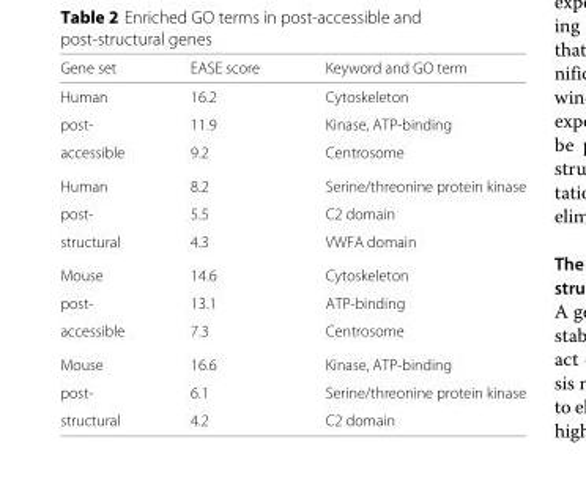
<table><thead><tr><td>Gene set</td><td>EASE score</td><td>Keyword and GO term</td></tr></thead><tbody><tr><td>Human</td><td>16.2</td><td>Cytoskeleton</td></tr><tr><td>post-</td><td>11.9</td><td>Kinase, ATP-binding</td></tr><tr><td>accessible</td><td>9.2</td><td>Centrosome</td></tr><tr><td>Human</td><td>8.2</td><td>Serine/threonine protein kinase</td></tr><tr><td>post-</td><td>5.5</td><td>C2 domain</td></tr><tr><td>structural</td><td>4.3</td><td>VWFA domain</td></tr><tr><td>Mouse</td><td>14.6</td><td>Cytoskeleton</td></tr><tr><td>post-</td><td>13.1</td><td>ATP-binding</td></tr><tr><td>accessible</td><td>7.3</td><td>Centrosome</td></tr><tr><td>Mouse</td><td>16.6</td><td>Kinase, ATP-binding</td></tr><tr><td>post-</td><td>6.1</td><td>Serine/threonine protein kinase</td></tr><tr><td>structural</td><td>4.2</td><td>C2 domain</td></tr></tbody></table>